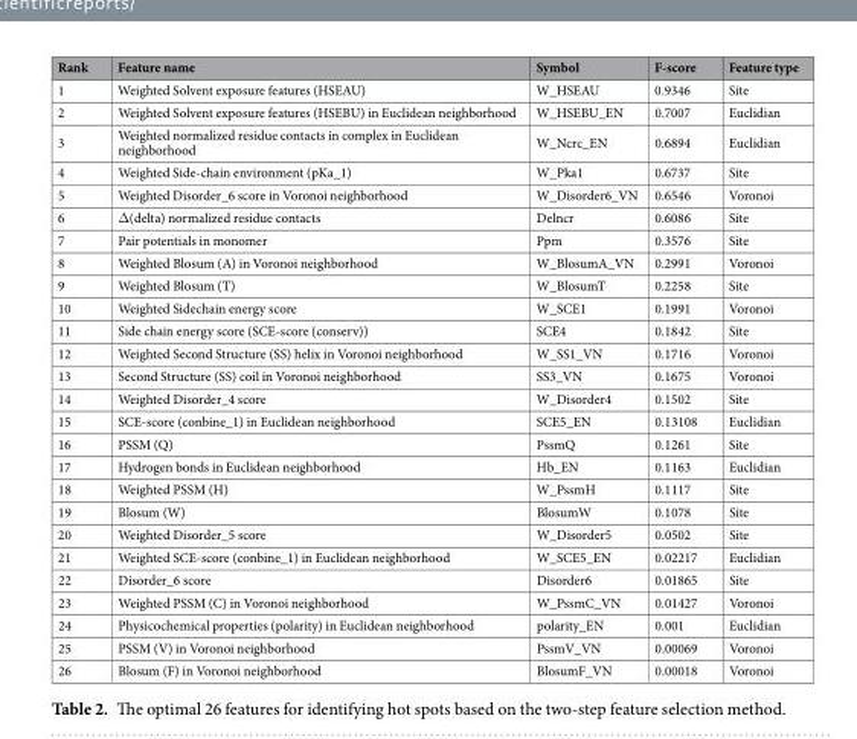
<table><thead><tr><td>Rank</td><td>Feature name</td><td>Symbol</td><td>F-score</td><td>Feature type</td></tr></thead><tbody><tr><td>1</td><td>Weighted Solvent exposure features (HSEAU)</td><td>W_HSEAU</td><td>0.9346</td><td>Site</td></tr><tr><td>2</td><td>Weighted Solvent exposure features (HSEBU) in Euclidean neighborhood</td><td>W_HSEBU_EN</td><td>0.7007</td><td>Euclidian</td></tr><tr><td>3</td><td>Weighted normalized residue contacts in complex in Euclidean neighborhood</td><td>W_Ncrc_EN</td><td>0.6894</td><td>Euclidian</td></tr><tr><td>4</td><td>Weighted Side-chain environment (pKa_1)</td><td>W_Pka1</td><td>0.6737</td><td>Site</td></tr><tr><td>5</td><td>Weighted Disorder_6 score in Voronoi neighborhood</td><td>W_Disorder6_VN</td><td>0.6546</td><td>Voronoi</td></tr><tr><td>6</td><td>Δ(delta) normalized residue contacts</td><td>Delncr</td><td>0.6086</td><td>Site</td></tr><tr><td>7</td><td>Pair potentials in monomer</td><td>Ppm</td><td>0.3576</td><td>Site</td></tr><tr><td>8</td><td>Weighted Blosum (A) in Voronoi neighborhood</td><td>W_BlosumA_VN</td><td>0.2991</td><td>Voronoi</td></tr><tr><td>9</td><td>Weighted Blosum (T)</td><td>W_BlosumT</td><td>0.2258</td><td>Site</td></tr><tr><td>10</td><td>Weighted Sidechain energy score</td><td>W_SCE1</td><td>0.1991</td><td>Voronoi</td></tr><tr><td>11</td><td>Side chain energy score (SCE-score (conserv))</td><td>SCE4</td><td>0.1842</td><td>Site</td></tr><tr><td>12</td><td>Weighted Second Structure (SS) helix in Voronoi neighborhood</td><td>W_SS1_VN</td><td>0.1716</td><td>Voronoi</td></tr><tr><td>13</td><td>Second Structure (SS) coil in Voronoi neighborhood</td><td>SS3_VN</td><td>0.1675</td><td>Voronoi</td></tr><tr><td>14</td><td>Weighted Disorder_4 score</td><td>W_Disorder4</td><td>0.1502</td><td>Site</td></tr><tr><td>15</td><td>SCE-score (conbine_1) in Euclidean neighborhood</td><td>SCE5_EN</td><td>0.13108</td><td>Euclidian</td></tr><tr><td>16</td><td>PSSM (Q)</td><td>PssmQ</td><td>0.1261</td><td>Site</td></tr><tr><td>17</td><td>Hydrogen bonds in Euclidean neighborhood</td><td>Hb_EN</td><td>0.1163</td><td>Euclidian</td></tr><tr><td>18</td><td>Weighted PSSM (H)</td><td>W_PssmH</td><td>0.1117</td><td>Site</td></tr><tr><td>19</td><td>Blosum (W)</td><td>BlosumW</td><td>0.1078</td><td>Site</td></tr><tr><td>20</td><td>Weighted Disorder_5 score</td><td>W_Disorder5</td><td>0.0502</td><td>Site</td></tr><tr><td>21</td><td>Weighted SCE-score (conbine_1) in Euclidean neighborhood</td><td>W_SCE5_EN</td><td>0.02217</td><td>Euclidian</td></tr><tr><td>22</td><td>Disorder_6 score</td><td>Disorder6</td><td>0.01865</td><td>Site</td></tr><tr><td>23</td><td>Weighted PSSM (C) in Voronoi neighborhood</td><td>W_PssmC_VN</td><td>0.01427</td><td>Voronoi</td></tr><tr><td>24</td><td>Physicochemical properties (polarity) in Euclidean neighborhood</td><td>polarity_EN</td><td>0.001</td><td>Euclidian</td></tr><tr><td>25</td><td>PSSM (V) in Voronoi neighborhood</td><td>PssmV_VN</td><td>0.00069</td><td>Voronoi</td></tr><tr><td>26</td><td>Blosum (F) in Voronoi neighborhood</td><td>BlosumF_VN</td><td>0.00018</td><td>Voronoi</td></tr></tbody></table>